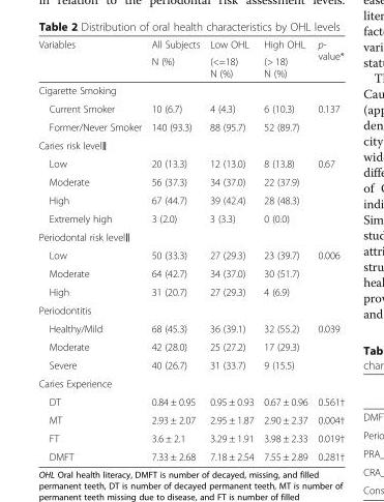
<table><thead><tr><td rowspan="2">Variables</td><td rowspan="2">All Subjects N (%)</td><td rowspan="2">Low OHL (&lt;=18) N (%)</td><td rowspan="2">High OHL (&gt; 18) N (%)</td><td rowspan="2">p- value*</td></tr><tr></tr></thead><tbody><tr><td colspan="5">Cigarette Smoking</td></tr><tr><td>Current Smoker</td><td>10 (6.7)</td><td>4 (4.3)</td><td>6 (10.3)</td><td rowspan="2">0.137</td></tr><tr><td>Former/Never Smoker</td><td>140 (93.3)</td><td>88 (95.7)</td><td>52 (89.7)</td></tr><tr><td colspan="5">Caries risk level‖</td></tr><tr><td>Low</td><td>20 (13.3)</td><td>12 (13.0)</td><td>8 (13.8)</td><td rowspan="4">0.67</td></tr><tr><td>Moderate</td><td>56 (37.3)</td><td>34 (37.0)</td><td>22 (37.9)</td></tr><tr><td>High</td><td>67 (44.7)</td><td>39 (42.4)</td><td>28 (48.3)</td></tr><tr><td>Extremely high</td><td>3 (2.0)</td><td>3 (3.3)</td><td>0 (0.0)</td></tr><tr><td colspan="5">Periodontal risk level‖</td></tr><tr><td>Low</td><td>50 (33.3)</td><td>27 (29.3)</td><td>23 (39.7)</td><td rowspan="3">0.006</td></tr><tr><td>Moderate</td><td>64 (42.7)</td><td>34 (37.0)</td><td>30 (51.7)</td></tr><tr><td>High</td><td>31 (20.7)</td><td>27 (29.3)</td><td>4 (6.9)</td></tr><tr><td colspan="5">Periodontitis</td></tr><tr><td>Healthy/Mild</td><td>68 (45.3)</td><td>36 (39.1)</td><td>32 (55.2)</td><td rowspan="3">0.039</td></tr><tr><td>Moderate</td><td>42 (28.0)</td><td>25 (27.2)</td><td>17 (29.3)</td></tr><tr><td>Severe</td><td>40 (26.7)</td><td>31 (33.7)</td><td>9 (15.5)</td></tr><tr><td colspan="5">Caries Experience</td></tr><tr><td>DT</td><td>0.84 ± 0.95</td><td>0.95 ± 0.93</td><td>0.67 ± 0.96</td><td>0.561†</td></tr><tr><td>MT</td><td>2.93 ± 2.07</td><td>2.95 ± 1.87</td><td>2.90 ± 2.37</td><td>0.004†</td></tr><tr><td>FT</td><td>3.6 ± 2.1</td><td>3.29 ± 1.91</td><td>3.98 ± 2.33</td><td>0.019†</td></tr><tr><td>DMFT</td><td>7.33 ± 2.68</td><td>7.18 ± 2.54</td><td>7.55 ± 2.89</td><td>0.281†</td></tr></tbody></table>